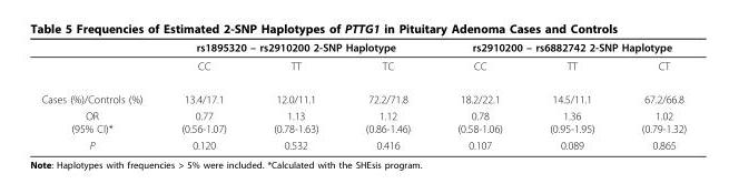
<table><thead><tr><td rowspan="2"></td><td colspan="3">rs1895320 – rs2910200 2-SNP Haplotype</td><td colspan="3">rs2910200 – rs6882742 2-SNP Haplotype</td></tr><tr><td>CC</td><td>TT</td><td>TC</td><td>CC</td><td>TT</td><td>CT</td></tr></thead><tbody><tr><td>Cases (%)/Controls (%)</td><td>13.4/17.1</td><td>12.0/11.1</td><td>72.2/71.8</td><td>18.2/22.1</td><td>14.5/11.1</td><td>67.2/66.8</td></tr><tr><td>OR (95% CI)*</td><td>0.77 (0.56-1.07)</td><td>1.13 (0.78-1.63)</td><td>1.12 (0.86-1.46)</td><td>0.78 (0.58-1.06)</td><td>1.36 (0.95-1.95)</td><td>1.02 (0.79-1.32)</td></tr><tr><td>P</td><td>0.120</td><td>0.532</td><td>0.416</td><td>0.107</td><td>0.089</td><td>0.865</td></tr></tbody></table>